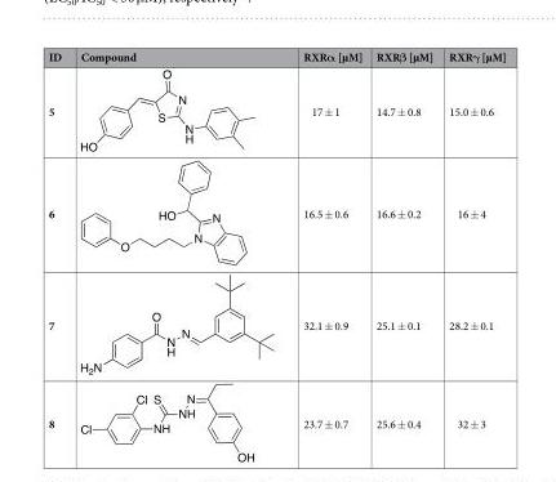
<table><thead><tr><td>ID</td><td>Compound</td><td>RXRα [µM]</td><td>RXRβ [µM]</td><td>RXRγ [µM]</td></tr></thead><tbody><tr><td>5</td><td></td><td>17 ± 1</td><td>14.7 ± 0.8</td><td>15.0 ± 0.6</td></tr><tr><td>6</td><td></td><td>16.5 ± 0.6</td><td>16.6 ± 0.2</td><td>16 ± 4</td></tr><tr><td>7</td><td></td><td>32.1 ± 0.9</td><td>25.1 ± 0.1</td><td>28.2 ± 0.1</td></tr><tr><td>8</td><td></td><td>23.7 ± 0.7</td><td>25.6 ± 0.4</td><td>32 ± 3</td></tr></tbody></table>